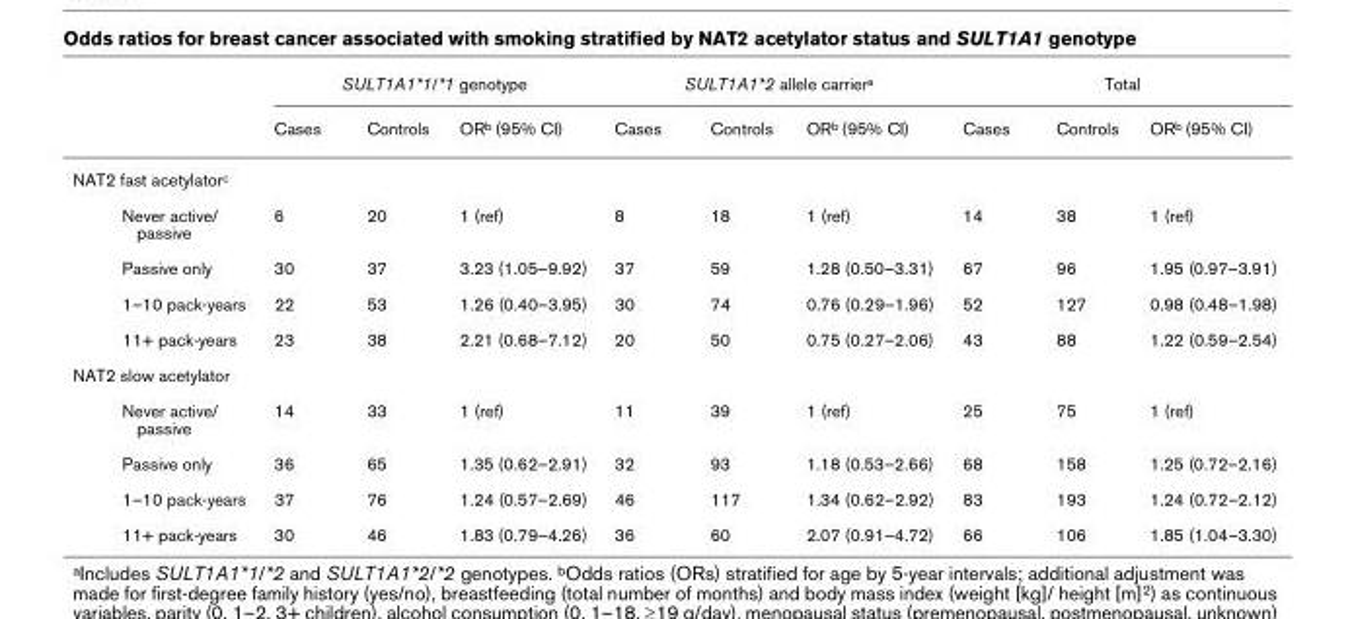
<table><thead><tr><td rowspan="2"></td><td colspan="3">SULT1A1*1/*1 genotype</td><td colspan="3">SULT1A1*2 allele carriera</td><td colspan="3">Total</td></tr><tr><td>Cases</td><td>Controls</td><td>ORb (95% CI)</td><td>Cases</td><td>Controls</td><td>ORb (95% CI)</td><td>Cases</td><td>Controls</td><td>ORb (95% CI)</td></tr></thead><tbody><tr><td colspan="10">NAT2 fast acetylatorc</td></tr><tr><td>Never active/ passive</td><td>6</td><td>20</td><td>1 (ref)</td><td>8</td><td>18</td><td>1 (ref)</td><td>14</td><td>38</td><td>1 (ref)</td></tr><tr><td>Passive only</td><td>30</td><td>37</td><td>3.23 (1.05–9.92)</td><td>37</td><td>59</td><td>1.28 (0.50–3.31)</td><td>67</td><td>96</td><td>1.95 (0.97–3.91)</td></tr><tr><td>1–10 pack-years</td><td>22</td><td>53</td><td>1.26 (0.40–3.95)</td><td>30</td><td>74</td><td>0.76 (0.29–1.96)</td><td>52</td><td>127</td><td>0.98 (0.48–1.98)</td></tr><tr><td>11+ pack-years</td><td>23</td><td>38</td><td>2.21 (0.68–7.12)</td><td>20</td><td>50</td><td>0.75 (0.27–2.06)</td><td>43</td><td>88</td><td>1.22 (0.59–2.54)</td></tr><tr><td colspan="10">NAT2 slow acetylator</td></tr><tr><td>Never active/ passive</td><td>14</td><td>33</td><td>1 (ref)</td><td>11</td><td>39</td><td>1 (ref)</td><td>25</td><td>75</td><td>1 (ref)</td></tr><tr><td>Passive only</td><td>36</td><td>65</td><td>1.35 (0.62–2.91)</td><td>32</td><td>93</td><td>1.18 (0.53–2.66)</td><td>68</td><td>158</td><td>1.25 (0.72–2.16)</td></tr><tr><td>1–10 pack-years</td><td>37</td><td>76</td><td>1.24 (0.57–2.69)</td><td>46</td><td>117</td><td>1.34 (0.62–2.92)</td><td>83</td><td>193</td><td>1.24 (0.72–2.12)</td></tr><tr><td>11+ pack-years</td><td>30</td><td>46</td><td>1.83 (0.79–4.26)</td><td>36</td><td>60</td><td>2.07 (0.91–4.72)</td><td>66</td><td>106</td><td>1.85 (1.04–3.30)</td></tr></tbody></table>